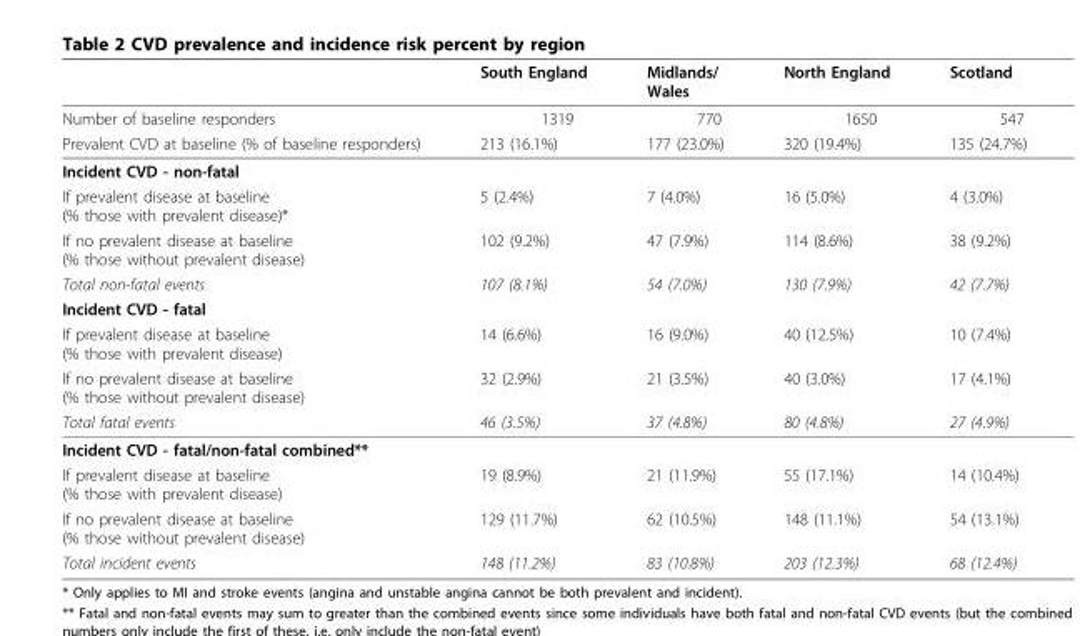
<table><thead><tr><td></td><td>South England</td><td>Midlands/ Wales</td><td>North England</td><td>Scotland</td></tr></thead><tbody><tr><td>Number of baseline responders</td><td>1319</td><td>770</td><td>1650</td><td>547</td></tr><tr><td>Prevalent CVD at baseline (% of baseline responders)</td><td>213 (16.1%)</td><td>177 (23.0%)</td><td>320 (19.4%)</td><td>135 (24.7%)</td></tr><tr><td colspan="5">Incident CVD - non-fatal</td></tr><tr><td>If prevalent disease at baseline (% those with prevalent disease)*</td><td>5 (2.4%)</td><td>7 (4.0%)</td><td>16 (5.0%)</td><td>4 (3.0%)</td></tr><tr><td>If no prevalent disease at baseline (% those without prevalent disease)</td><td>102 (9.2%)</td><td>47 (7.9%)</td><td>114 (8.6%)</td><td>38 (9.2%)</td></tr><tr><td>Total non-fatal events</td><td>107 (8.1%)</td><td>54 (7.0%)</td><td>130 (7.9%)</td><td>42 (7.7%)</td></tr><tr><td colspan="5">Incident CVD - fatal</td></tr><tr><td>If prevalent disease at baseline (% those with prevalent disease)</td><td>14 (6.6%)</td><td>16 (9.0%)</td><td>40 (12.5%)</td><td>10 (7.4%)</td></tr><tr><td>If no prevalent disease at baseline (% those without prevalent disease)</td><td>32 (2.9%)</td><td>21 (3.5%)</td><td>40 (3.0%)</td><td>17 (4.1%)</td></tr><tr><td>Total fatal events</td><td>46 (3.5%)</td><td>37 (4.8%)</td><td>80 (4.8%)</td><td>27 (4.9%)</td></tr><tr><td colspan="5">Incident CVD - fatal/non-fatal combined**</td></tr><tr><td>If prevalent disease at baseline (% those with prevalent disease)</td><td>19 (8.9%)</td><td>21 (11.9%)</td><td>55 (17.1%)</td><td>14 (10.4%)</td></tr><tr><td>If no prevalent disease at baseline (% those without prevalent disease)</td><td>129 (11.7%)</td><td>62 (10.5%)</td><td>148 (11.1%)</td><td>54 (13.1%)</td></tr><tr><td>Total incident events</td><td>148 (11.2%)</td><td>83 (10.8%)</td><td>203 (12.3%)</td><td>68 (12.4%)</td></tr></tbody></table>